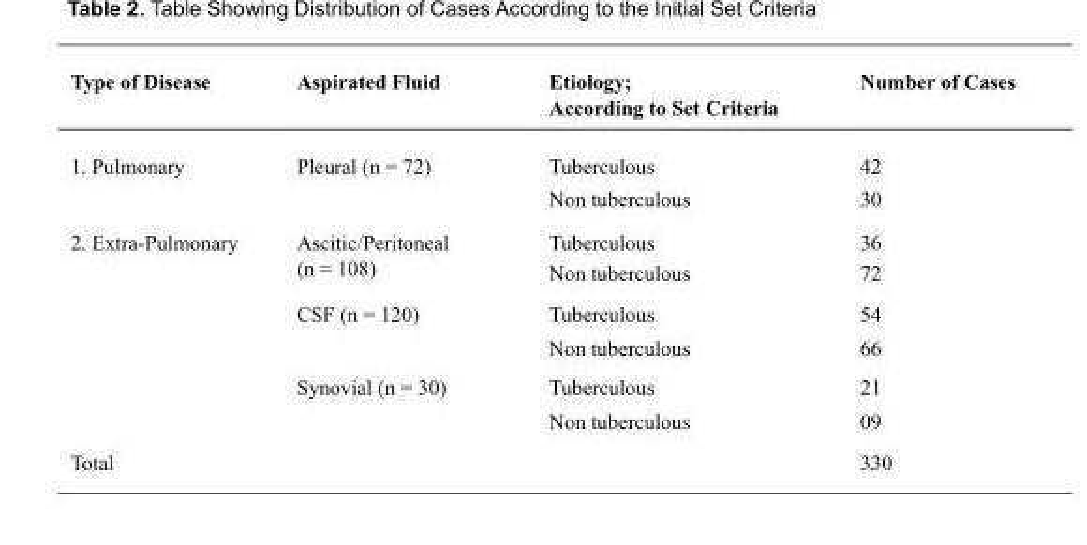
<table><thead><tr><td>Type of Disease</td><td>Aspirated Fluid</td><td>Etiology; According to Set Criteria</td><td>Number of Cases</td></tr></thead><tbody><tr><td rowspan="2">1. Pulmonary</td><td rowspan="2">Pleural (n = 72)</td><td>Tuberculous</td><td>42</td></tr><tr><td>Non tuberculous</td><td>30</td></tr><tr><td rowspan="6">2. Extra-Pulmonary</td><td rowspan="2">Ascitic/Peritoneal (n = 108)</td><td>Tuberculous</td><td>36</td></tr><tr><td>Non tuberculous</td><td>72</td></tr><tr><td rowspan="2">CSF (n = 120)</td><td>Tuberculous</td><td>54</td></tr><tr><td>Non tuberculous</td><td>66</td></tr><tr><td rowspan="2">Synovial (n = 30)</td><td>Tuberculous</td><td>21</td></tr><tr><td>Non tuberculous</td><td>09</td></tr><tr><td colspan="3">Total</td><td>330</td></tr></tbody></table>